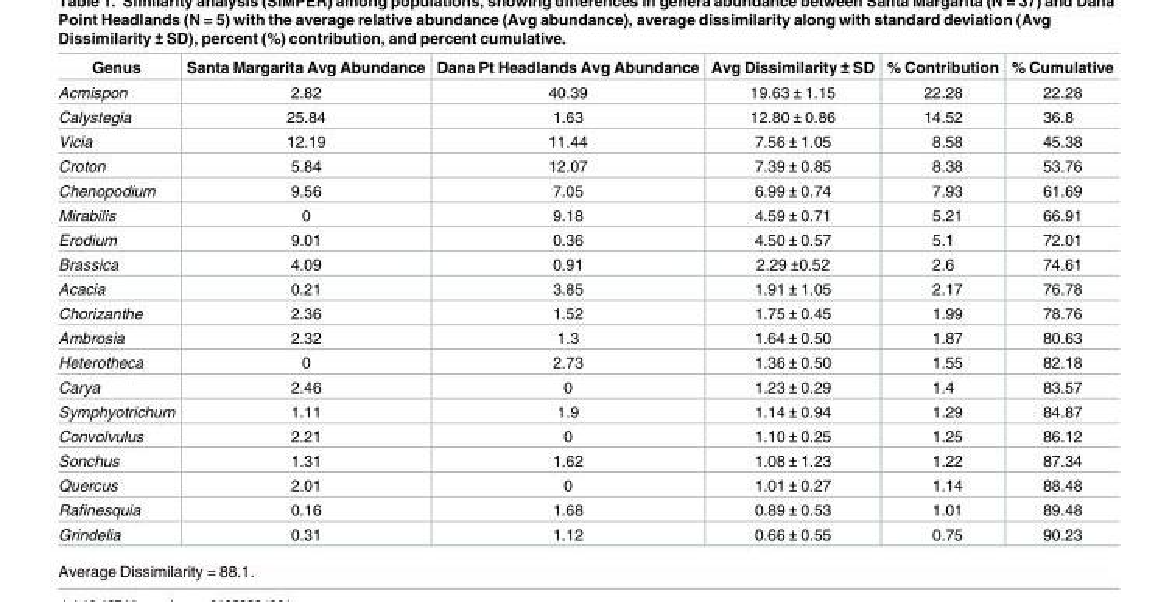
<table><thead><tr><td>Genus</td><td>Santa Margarita Avg Abundance</td><td>Dana Pt Headlands Avg Abundance</td><td>Avg Dissimilarity ± SD</td><td>% Contribution</td><td>% Cumulative</td></tr></thead><tbody><tr><td>Acmispon</td><td>2.82</td><td>40.39</td><td>19.63 ± 1.15</td><td>22.28</td><td>22.28</td></tr><tr><td>Calystegia</td><td>25.84</td><td>1.63</td><td>12.80 ± 0.86</td><td>14.52</td><td>36.8</td></tr><tr><td>Vicia</td><td>12.19</td><td>11.44</td><td>7.56 ± 1.05</td><td>8.58</td><td>45.38</td></tr><tr><td>Croton</td><td>5.84</td><td>12.07</td><td>7.39 ± 0.85</td><td>8.38</td><td>53.76</td></tr><tr><td>Chenopodium</td><td>9.56</td><td>7.05</td><td>6.99 ± 0.74</td><td>7.93</td><td>61.69</td></tr><tr><td>Mirabilis</td><td>0</td><td>9.18</td><td>4.59 ± 0.71</td><td>5.21</td><td>66.91</td></tr><tr><td>Erodium</td><td>9.01</td><td>0.36</td><td>4.50 ± 0.57</td><td>5.1</td><td>72.01</td></tr><tr><td>Brassica</td><td>4.09</td><td>0.91</td><td>2.29 ±0.52</td><td>2.6</td><td>74.61</td></tr><tr><td>Acacia</td><td>0.21</td><td>3.85</td><td>1.91 ± 1.05</td><td>2.17</td><td>76.78</td></tr><tr><td>Chorizanthe</td><td>2.36</td><td>1.52</td><td>1.75 ± 0.45</td><td>1.99</td><td>78.76</td></tr><tr><td>Ambrosia</td><td>2.32</td><td>1.3</td><td>1.64 ± 0.50</td><td>1.87</td><td>80.63</td></tr><tr><td>Heterotheca</td><td>0</td><td>2.73</td><td>1.36 ± 0.50</td><td>1.55</td><td>82.18</td></tr><tr><td>Carya</td><td>2.46</td><td>0</td><td>1.23 ± 0.29</td><td>1.4</td><td>83.57</td></tr><tr><td>Symphyotrichum</td><td>1.11</td><td>1.9</td><td>1.14 ± 0.94</td><td>1.29</td><td>84.87</td></tr><tr><td>Convolvulus</td><td>2.21</td><td>0</td><td>1.10 ± 0.25</td><td>1.25</td><td>86.12</td></tr><tr><td>Sonchus</td><td>1.31</td><td>1.62</td><td>1.08 ± 1.23</td><td>1.22</td><td>87.34</td></tr><tr><td>Quercus</td><td>2.01</td><td>0</td><td>1.01 ± 0.27</td><td>1.14</td><td>88.48</td></tr><tr><td>Rafinesquia</td><td>0.16</td><td>1.68</td><td>0.89 ± 0.53</td><td>1.01</td><td>89.48</td></tr><tr><td>Grindelia</td><td>0.31</td><td>1.12</td><td>0.66 ± 0.55</td><td>0.75</td><td>90.23</td></tr></tbody></table>